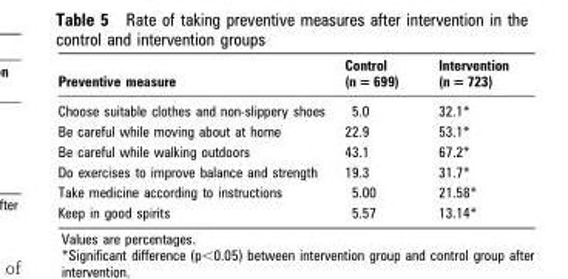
<table><thead><tr><td>Preventive measure</td><td>Control (n = 699)</td><td>Intervention (n = 723)</td></tr></thead><tbody><tr><td>Choose suitable clothes and non-slippery shoes</td><td>5.0</td><td>32.1*</td></tr><tr><td>Be careful while moving about at home</td><td>22.9</td><td>53.1*</td></tr><tr><td>Be careful while walking outdoors</td><td>43.1</td><td>67.2*</td></tr><tr><td>Do exercises to improve balance and strength</td><td>19.3</td><td>31.7*</td></tr><tr><td>Take medicine according to instructions</td><td>5.00</td><td>21.58*</td></tr><tr><td>Keep in good spirits</td><td>5.57</td><td>13.14*</td></tr></tbody></table>